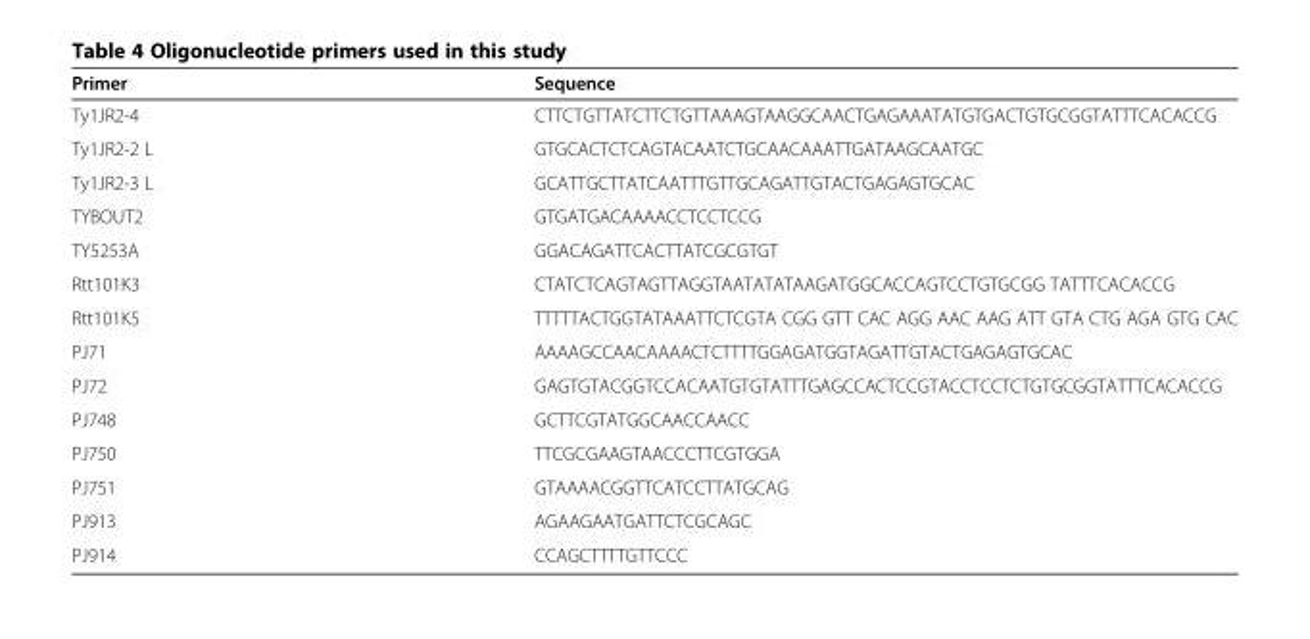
<table><thead><tr><td>Primer</td><td>Sequence</td></tr></thead><tbody><tr><td>Ty1JR2-4</td><td>CTTCTGTTATCTTCTGTTAAAGTAAGGCAACTGAGAAATATGTGACTGTGCGGTATTTCACACCG</td></tr><tr><td>Ty1JR2-2 L</td><td>GTGCACTCTCAGTACAATCTGCAACAAATTGATAAGCAATGC</td></tr><tr><td>Ty1JR2-3 L</td><td>GCATTGCTTATCAATTTGTTGCAGATTGTACTGAGAGTGCAC</td></tr><tr><td>TYBOUT2</td><td>GTGATGACAAAACCTCCTCCG</td></tr><tr><td>TY5253A</td><td>GGACAGATTCACTTATCGCGTGT</td></tr><tr><td>Rtt101K3</td><td>CTATCTCAGTAGTTAGGTAATATATAAGATGGCACCAGTCCTGTGCGG TATTTCACACCG</td></tr><tr><td>Rtt101K5</td><td>TTTTTACTGGTATAAATTCTCGTA CGG GTT CAC AGG AAC AAG ATT GTA CTG AGA GTG CAC</td></tr><tr><td>PJ71</td><td>AAAAGCCAACAAAACTCTTTTGGAGATGGTAGATTGTACTGAGAGTGCAC</td></tr><tr><td>PJ72</td><td>GAGTGTACGGTCCACAATGTGTATTTGAGCCACTCCGTACCTCCTCTGTGCGGTATTTCACACCG</td></tr><tr><td>PJ748</td><td>GCTTCGTATGGCAACCAACC</td></tr><tr><td>PJ750</td><td>TTCGCGAAGTAACCCTTCGTGGA</td></tr><tr><td>PJ751</td><td>GTAAAACGGTTCATCCTTATGCAG</td></tr><tr><td>PJ913</td><td>AGAAGAATGATTCTCGCAGC</td></tr><tr><td>PJ914</td><td>CCAGCTTTTGTTCCC</td></tr></tbody></table>